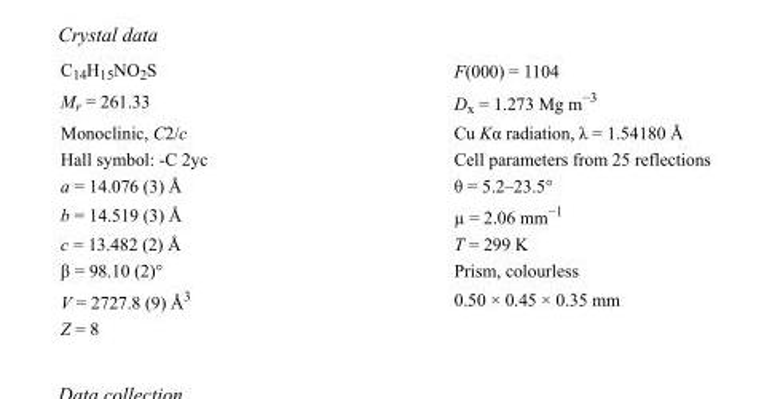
<table><tbody><tr><td>C<sub>14</sub>H<sub>15</sub>NO<sub>2</sub>S</td><td>F(000) = 1104</td></tr><tr><td>M<sub>r</sub> = 261.33</td><td>D<sub>x</sub> = 1.273 Mg m<sup>−3</sup></td></tr><tr><td>Monoclinic, C2/c</td><td>Cu Kα radiation, λ = 1.54180 Å</td></tr><tr><td>Hall symbol: -C 2yc</td><td>Cell parameters from 25 reflections</td></tr><tr><td>a = 14.076 (3) Å</td><td>θ = 5.2–23.5°</td></tr><tr><td>b = 14.519 (3) Å</td><td>µ = 2.06 mm<sup>−1</sup></td></tr><tr><td>c = 13.482 (2) Å</td><td>T = 299 K</td></tr><tr><td>β = 98.10 (2)°</td><td>Prism, colourless</td></tr><tr><td>V = 2727.8 (9) Å<sup>3</sup></td><td>0.50 × 0.45 × 0.35 mm</td></tr><tr><td>Z = 8</td><td></td></tr></tbody></table>